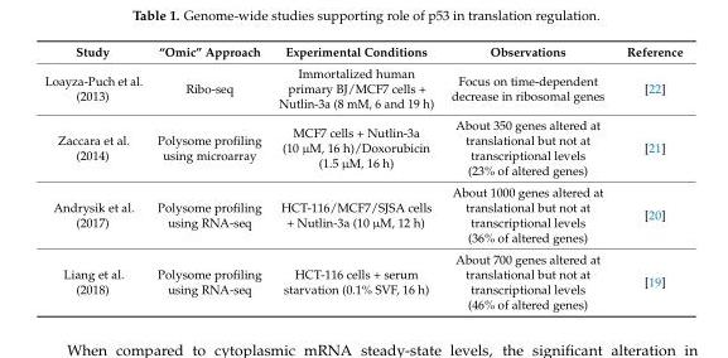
<table><thead><tr><td>Study</td><td>“Omic” Approach</td><td>Experimental Conditions</td><td>Observations</td><td>Reference</td></tr></thead><tbody><tr><td>Loayza-Puch et al. (2013)</td><td>Ribo-seq</td><td>Immortalized human primary BJ/MCF7 cells + Nutlin-3a (8 mM, 6 and 19 h)</td><td>Focus on time-dependent decrease in ribosomal genes</td><td>[22]</td></tr><tr><td>Zaccara et al. (2014)</td><td>Polysome profiling using microarray</td><td>MCF7 cells + Nutlin-3a (10 µM, 16 h)/Doxorubicin (1.5 µM, 16 h)</td><td>About 350 genes altered at translational but not at transcriptional levels (23% of altered genes)</td><td>[21]</td></tr><tr><td>Andrysik et al. (2017)</td><td>Polysome profiling using RNA-seq</td><td>HCT-116/MCF7/SJSA cells + Nutlin-3a (10 µM, 12 h)</td><td>About 1000 genes altered at translational but not at transcriptional levels (36% of altered genes)</td><td>[20]</td></tr><tr><td>Liang et al. (2018)</td><td>Polysome profiling using RNA-seq</td><td>HCT-116 cells + serum starvation (0.1% SVF, 16 h)</td><td>About 700 genes altered at translational but not at transcriptional levels (46% of altered genes)</td><td>[19]</td></tr></tbody></table>